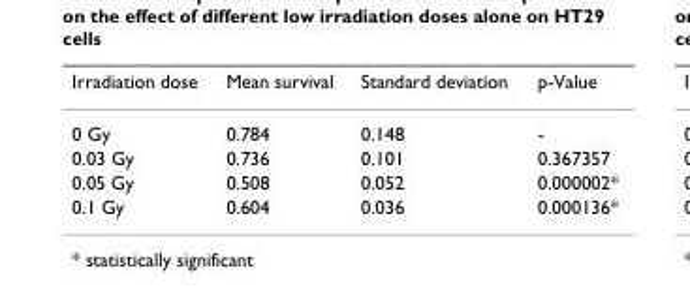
<table><thead><tr><td>Irradiation dose</td><td>Mean survival</td><td>Standard deviation</td><td>p-Value</td></tr></thead><tbody><tr><td>0 Gy</td><td>0.784</td><td>0.148</td><td>-</td></tr><tr><td>0.03 Gy</td><td>0.736</td><td>0.101</td><td>0.367357</td></tr><tr><td>0.05 Gy</td><td>0.508</td><td>0.052</td><td>0.000002*</td></tr><tr><td>0.1 Gy</td><td>0.604</td><td>0.036</td><td>0.000136*</td></tr></tbody></table>